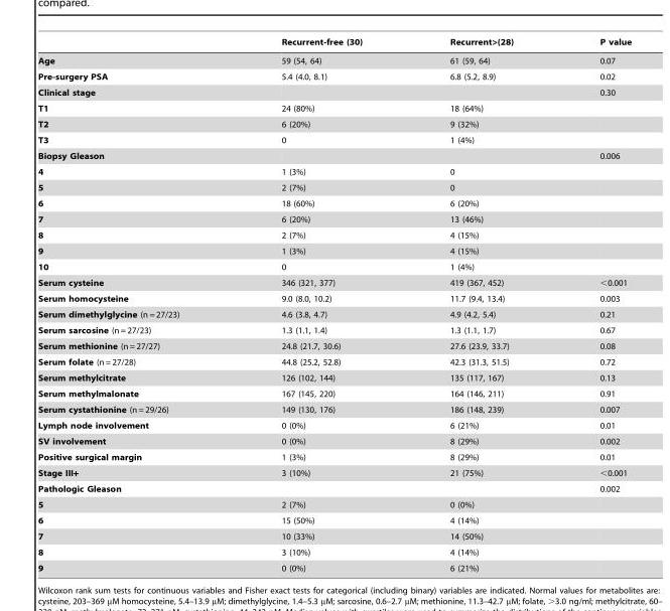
<table><thead><tr><td></td><td>Recurrent-free (30)</td><td>Recurrent&gt;(28)</td><td>P value</td></tr></thead><tbody><tr><td>Age</td><td>59 (54, 64)</td><td>61 (59, 64)</td><td>0.07</td></tr><tr><td>Pre-surgery PSA</td><td>5.4 (4.0, 8.1)</td><td>6.8 (5.2, 8.9)</td><td>0.02</td></tr><tr><td>Clinical stage</td><td></td><td></td><td>0.30</td></tr><tr><td>T1</td><td>24 (80%)</td><td>18 (64%)</td><td></td></tr><tr><td>T2</td><td>6 (20%)</td><td>9 (32%)</td><td></td></tr><tr><td>T3</td><td>0</td><td>1 (4%)</td><td></td></tr><tr><td>Biopsy Gleason</td><td></td><td></td><td>0.006</td></tr><tr><td>4</td><td>1 (3%)</td><td>0</td><td></td></tr><tr><td>5</td><td>2 (7%)</td><td>0</td><td></td></tr><tr><td>6</td><td>18 (60%)</td><td>6 (20%)</td><td></td></tr><tr><td>7</td><td>6 (20%)</td><td>13 (46%)</td><td></td></tr><tr><td>8</td><td>2 (7%)</td><td>4 (15%)</td><td></td></tr><tr><td>9</td><td>1 (3%)</td><td>4 (15%)</td><td></td></tr><tr><td>10</td><td>0</td><td>1 (4%)</td><td></td></tr><tr><td>Serum cysteine</td><td>346 (321, 377)</td><td>419 (367, 452)</td><td>&lt;0.001</td></tr><tr><td>Serum homocysteine</td><td>9.0 (8.0, 10.2)</td><td>11.7 (9.4, 13.4)</td><td>0.003</td></tr><tr><td>Serum dimethylglycine (n = 27/23)</td><td>4.6 (3.8, 4.7)</td><td>4.9 (4.2, 5.4)</td><td>0.21</td></tr><tr><td>Serum sarcosine (n = 27/23)</td><td>1.3 (1.1, 1.4)</td><td>1.3 (1.1, 1.7)</td><td>0.67</td></tr><tr><td>Serum methionine (n = 27/27)</td><td>24.8 (21.7, 30.6)</td><td>27.6 (23.9, 33.7)</td><td>0.08</td></tr><tr><td>Serum folate (n = 27/28)</td><td>44.8 (25.2, 52.8)</td><td>42.3 (31.3, 51.5)</td><td>0.72</td></tr><tr><td>Serum methylcitrate</td><td>126 (102, 144)</td><td>135 (117, 167)</td><td>0.13</td></tr><tr><td>Serum methylmalonate</td><td>167 (145, 220)</td><td>164 (146, 211)</td><td>0.91</td></tr><tr><td>Serum cystathionine (n = 29/26)</td><td>149 (130, 176)</td><td>186 (148, 239)</td><td>0.007</td></tr><tr><td>Lymph node involvement</td><td>0 (0%)</td><td>6 (21%)</td><td>0.01</td></tr><tr><td>SV involvement</td><td>0 (0%)</td><td>8 (29%)</td><td>0.002</td></tr><tr><td>Positive surgical margin</td><td>1 (3%)</td><td>8 (29%)</td><td>0.01</td></tr><tr><td>Stage III+</td><td>3 (10%)</td><td>21 (75%)</td><td>&lt;0.001</td></tr><tr><td>Pathologic Gleason</td><td></td><td></td><td>0.002</td></tr><tr><td>5</td><td>2 (7%)</td><td>0 (0%)</td><td></td></tr><tr><td>6</td><td>15 (50%)</td><td>4 (14%)</td><td></td></tr><tr><td>7</td><td>10 (33%)</td><td>14 (50%)</td><td></td></tr><tr><td>8</td><td>3 (10%)</td><td>4 (14%)</td><td></td></tr><tr><td>9</td><td>0 (0%)</td><td>6 (21%)</td><td></td></tr></tbody></table>